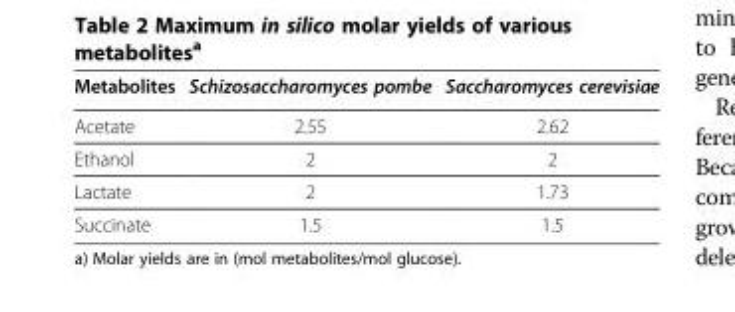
<table><thead><tr><td>Metabolites</td><td>Schizosaccharomyces pombe</td><td>Saccharomyces cerevisiae</td></tr></thead><tbody><tr><td>Acetate</td><td>2.55</td><td>2.62</td></tr><tr><td>Ethanol</td><td>2</td><td>2</td></tr><tr><td>Lactate</td><td>2</td><td>1.73</td></tr><tr><td>Succinate</td><td>1.5</td><td>1.5</td></tr></tbody></table>